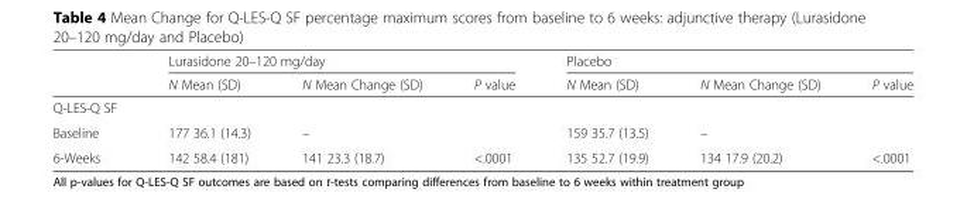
<table><thead><tr><td rowspan="2"></td><td colspan="3">Lurasidone 20–120 mg/day</td><td colspan="3">Placebo</td></tr><tr><td>N Mean (SD)</td><td>N Mean Change (SD)</td><td>P value</td><td>N Mean (SD)</td><td>N Mean Change (SD)</td><td>P value</td></tr></thead><tbody><tr><td colspan="7">Q-LES-Q SF</td></tr><tr><td>Baseline</td><td>177 36.1 (14.3)</td><td>–</td><td></td><td>159 35.7 (13.5)</td><td>–</td><td></td></tr><tr><td>6-Weeks</td><td>142 58.4 (181)</td><td>141 23.3 (18.7)</td><td>&lt;.0001</td><td>135 52.7 (19.9)</td><td>134 17.9 (20.2)</td><td>&lt;.0001</td></tr></tbody></table>